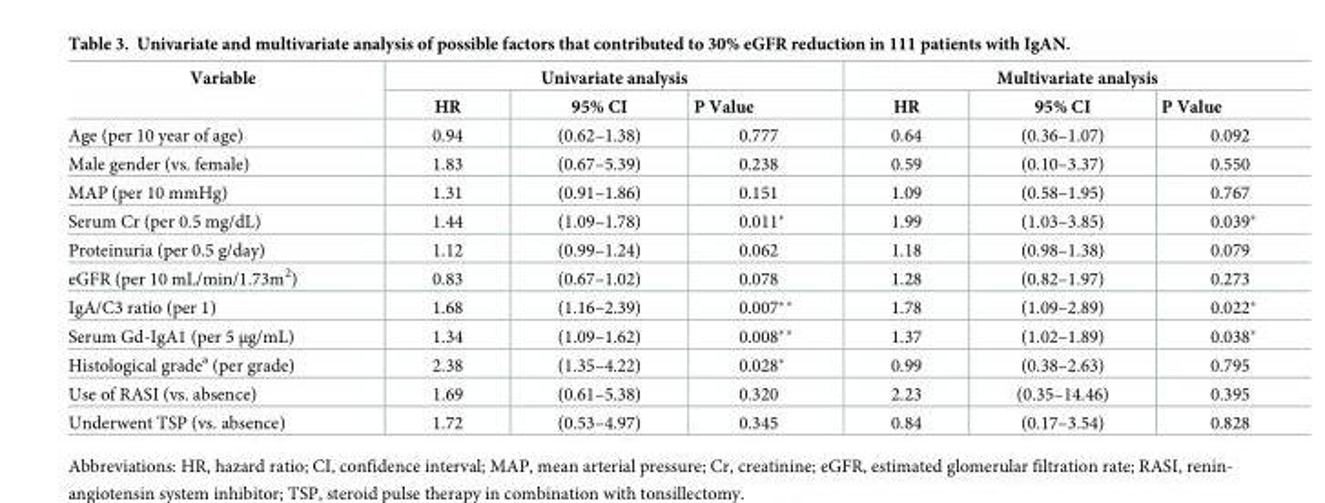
<table><thead><tr><td rowspan="2">Variable</td><td colspan="3">Univariate analysis</td><td colspan="3">Multivariate analysis</td></tr><tr><td>HR</td><td>95% CI</td><td>P Value</td><td>HR</td><td>95% CI</td><td>P Value</td></tr></thead><tbody><tr><td>Age (per 10 year of age)</td><td>0.94</td><td>(0.62–1.38)</td><td>0.777</td><td>0.64</td><td>(0.36–1.07)</td><td>0.092</td></tr><tr><td>Male gender (vs. female)</td><td>1.83</td><td>(0.67–5.39)</td><td>0.238</td><td>0.59</td><td>(0.10–3.37)</td><td>0.550</td></tr><tr><td>MAP (per 10 mmHg)</td><td>1.31</td><td>(0.91–1.86)</td><td>0.151</td><td>1.09</td><td>(0.58–1.95)</td><td>0.767</td></tr><tr><td>Serum Cr (per 0.5 mg/dL)</td><td>1.44</td><td>(1.09–1.78)</td><td>0.011*</td><td>1.99</td><td>(1.03–3.85)</td><td>0.039*</td></tr><tr><td>Proteinuria (per 0.5 g/day)</td><td>1.12</td><td>(0.99–1.24)</td><td>0.062</td><td>1.18</td><td>(0.98–1.38)</td><td>0.079</td></tr><tr><td>eGFR (per 10 mL/min/1.73m<sup>2</sup>)</td><td>0.83</td><td>(0.67–1.02)</td><td>0.078</td><td>1.28</td><td>(0.82–1.97)</td><td>0.273</td></tr><tr><td>IgA/C3 ratio (per 1)</td><td>1.68</td><td>(1.16–2.39)</td><td>0.007**</td><td>1.78</td><td>(1.09–2.89)</td><td>0.022*</td></tr><tr><td>Serum Gd-IgA1 (per 5 μg/mL)</td><td>1.34</td><td>(1.09–1.62)</td><td>0.008**</td><td>1.37</td><td>(1.02–1.89)</td><td>0.038*</td></tr><tr><td>Histological grade<sup>a</sup> (per grade)</td><td>2.38</td><td>(1.35–4.22)</td><td>0.028*</td><td>0.99</td><td>(0.38–2.63)</td><td>0.795</td></tr><tr><td>Use of RASI (vs. absence)</td><td>1.69</td><td>(0.61–5.38)</td><td>0.320</td><td>2.23</td><td>(0.35–14.46)</td><td>0.395</td></tr><tr><td>Underwent TSP (vs. absence)</td><td>1.72</td><td>(0.53–4.97)</td><td>0.345</td><td>0.84</td><td>(0.17–3.54)</td><td>0.828</td></tr></tbody></table>